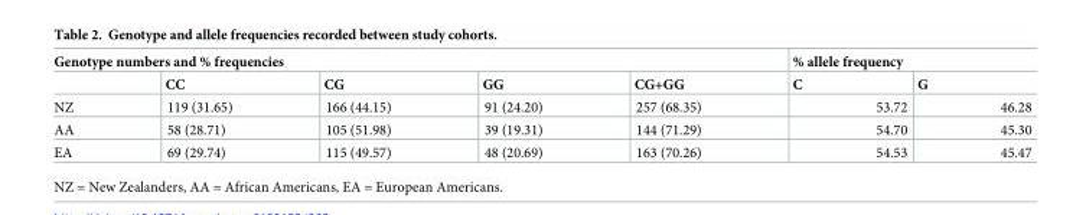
<table><thead><tr><td colspan="5">Genotype numbers and % frequencies</td><td colspan="2">% allele frequency</td></tr><tr><td></td><td>CC</td><td>CG</td><td>GG</td><td>CG+GG</td><td>C</td><td>G</td></tr></thead><tbody><tr><td>NZ</td><td>119 (31.65)</td><td>166 (44.15)</td><td>91 (24.20)</td><td>257 (68.35)</td><td>53.72</td><td>46.28</td></tr><tr><td>AA</td><td>58 (28.71)</td><td>105 (51.98)</td><td>39 (19.31)</td><td>144 (71.29)</td><td>54.70</td><td>45.30</td></tr><tr><td>EA</td><td>69 (29.74)</td><td>115 (49.57)</td><td>48 (20.69)</td><td>163 (70.26)</td><td>54.53</td><td>45.47</td></tr></tbody></table>